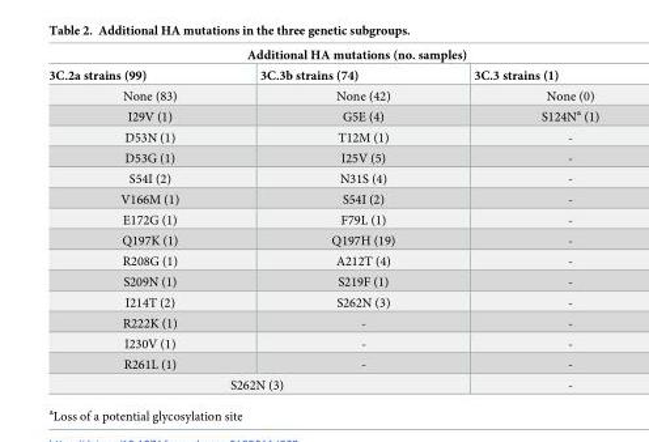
<table><thead><tr><td colspan="3">Additional HA mutations (no. samples)</td></tr><tr><td>3C.2a strains (99)</td><td>3C.3b strains (74)</td><td>3C.3 strains (1)</td></tr></thead><tbody><tr><td>None (83)</td><td>None (42)</td><td>None (0)</td></tr><tr><td>I29V (1)</td><td>G5E (4)</td><td>S124N<sup>a</sup> (1)</td></tr><tr><td>D53N (1)</td><td>T12M (1)</td><td>-</td></tr><tr><td>D53G (1)</td><td>I25V (5)</td><td>-</td></tr><tr><td>S54I (2)</td><td>N31S (4)</td><td>-</td></tr><tr><td>V166M (1)</td><td>S54I (2)</td><td>-</td></tr><tr><td>E172G (1)</td><td>F79L (1)</td><td>-</td></tr><tr><td>Q197K (1)</td><td>Q197H (19)</td><td>-</td></tr><tr><td>R208G (1)</td><td>A212T (4)</td><td>-</td></tr><tr><td>S209N (1)</td><td>S219F (1)</td><td>-</td></tr><tr><td>I214T (2)</td><td>S262N (3)</td><td>-</td></tr><tr><td>R222K (1)</td><td>-</td><td>-</td></tr><tr><td>I230V (1)</td><td>-</td><td>-</td></tr><tr><td>R261L (1)</td><td>-</td><td>-</td></tr><tr><td colspan="2">S262N (3)</td><td>-</td></tr></tbody></table>